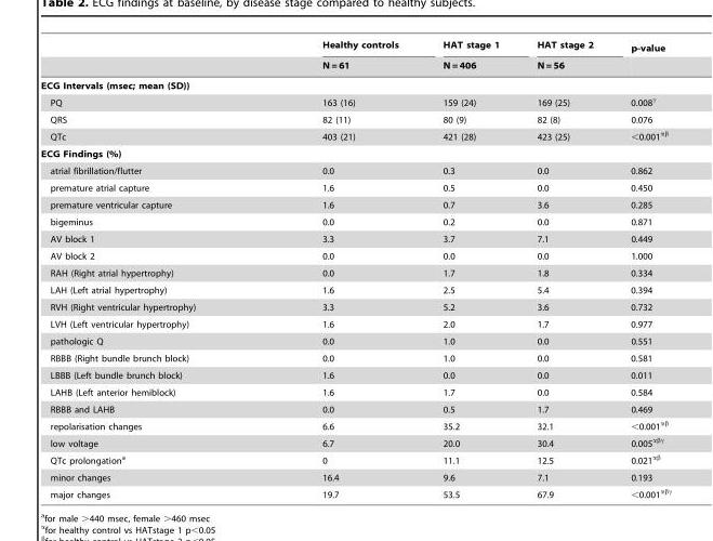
<table><thead><tr><td rowspan="2"></td><td rowspan="2">Healthy controls N = 61</td><td rowspan="2">HAT stage 1 N = 406</td><td rowspan="2">HAT stage 2 N = 56</td><td rowspan="2">p-value</td></tr><tr></tr></thead><tbody><tr><td colspan="5">ECG Intervals (msec; mean (SD))</td></tr><tr><td>PQ</td><td>163 (16)</td><td>159 (24)</td><td>169 (25)</td><td>0.008γ</td></tr><tr><td>QRS</td><td>82 (11)</td><td>80 (9)</td><td>82 (8)</td><td>0.076</td></tr><tr><td>QTc</td><td>403 (21)</td><td>421 (28)</td><td>423 (25)</td><td>&lt;0.001αβ</td></tr><tr><td colspan="5">ECG Findings (%)</td></tr><tr><td>atrial fibrillation/flutter</td><td>0.0</td><td>0.3</td><td>0.0</td><td>0.862</td></tr><tr><td>premature atrial capture</td><td>1.6</td><td>0.5</td><td>0.0</td><td>0.450</td></tr><tr><td>premature ventricular capture</td><td>1.6</td><td>0.7</td><td>3.6</td><td>0.285</td></tr><tr><td>bigeminus</td><td>0.0</td><td>0.2</td><td>0.0</td><td>0.871</td></tr><tr><td>AV block 1</td><td>3.3</td><td>3.7</td><td>7.1</td><td>0.449</td></tr><tr><td>AV block 2</td><td>0.0</td><td>0.0</td><td>0.0</td><td>1.000</td></tr><tr><td>RAH (Right atrial hypertrophy)</td><td>0.0</td><td>1.7</td><td>1.8</td><td>0.334</td></tr><tr><td>LAH (Left atrial hypertrophy)</td><td>1.6</td><td>2.5</td><td>5.4</td><td>0.394</td></tr><tr><td>RVH (Right ventricular hypertrophy)</td><td>3.3</td><td>5.2</td><td>3.6</td><td>0.732</td></tr><tr><td>LVH (Left ventricular hypertrophy)</td><td>1.6</td><td>2.0</td><td>1.7</td><td>0.977</td></tr><tr><td>pathologic Q</td><td>0.0</td><td>1.0</td><td>0.0</td><td>0.551</td></tr><tr><td>RBBB (Right bundle brunch block)</td><td>0.0</td><td>1.0</td><td>0.0</td><td>0.581</td></tr><tr><td>LBBB (Left bundle brunch block)</td><td>1.6</td><td>0.0</td><td>0.0</td><td>0.011</td></tr><tr><td>LAHB (Left anterior hemiblock)</td><td>1.6</td><td>1.7</td><td>0.0</td><td>0.584</td></tr><tr><td>RBBB and LAHB</td><td>0.0</td><td>0.5</td><td>1.7</td><td>0.469</td></tr><tr><td>repolarisation changes</td><td>6.6</td><td>35.2</td><td>32.1</td><td>&lt;0.001αβ</td></tr><tr><td>low voltage</td><td>6.7</td><td>20.0</td><td>30.4</td><td>0.005αβγ</td></tr><tr><td>QTc prolongation<sup>a</sup></td><td>0</td><td>11.1</td><td>12.5</td><td>0.021αβ</td></tr><tr><td>minor changes</td><td>16.4</td><td>9.6</td><td>7.1</td><td>0.193</td></tr><tr><td>major changes</td><td>19.7</td><td>53.5</td><td>67.9</td><td>&lt;0.001αβγ</td></tr></tbody></table>